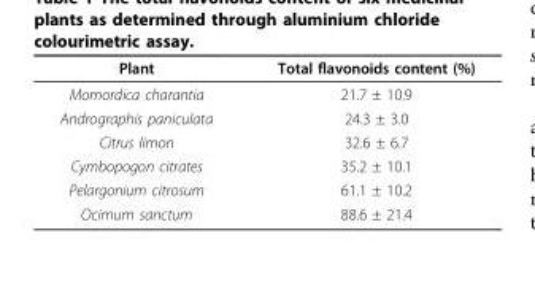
<table><thead><tr><td>Plant</td><td>Total flavonoids content (%)</td></tr></thead><tbody><tr><td>Momordica charantia</td><td>21.7 ± 10.9</td></tr><tr><td>Andrographis paniculata</td><td>24.3 ± 3.0</td></tr><tr><td>Citrus limon</td><td>32.6 ± 6.7</td></tr><tr><td>Cymbopogon citrates</td><td>35.2 ± 10.1</td></tr><tr><td>Pelargonium citrosum</td><td>61.1 ± 10.2</td></tr><tr><td>Ocimum sanctum</td><td>88.6 ± 21.4</td></tr></tbody></table>